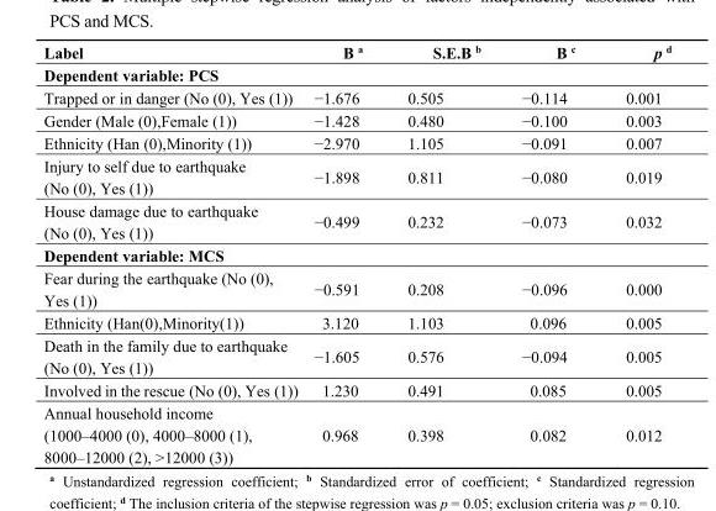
<table><thead><tr><td>Label</td><td>B <sup>a</sup></td><td>S.E.B <sup>b</sup></td><td>B <sup>c</sup></td><td>p <sup>d</sup></td></tr></thead><tbody><tr><td colspan="5">Dependent variable: PCS</td></tr><tr><td>Trapped or in danger (No (0), Yes (1))</td><td>−1.676</td><td>0.505</td><td>−0.114</td><td>0.001</td></tr><tr><td>Gender (Male (0),Female (1))</td><td>−1.428</td><td>0.480</td><td>−0.100</td><td>0.003</td></tr><tr><td>Ethnicity (Han (0),Minority (1))</td><td>−2.970</td><td>1.105</td><td>−0.091</td><td>0.007</td></tr><tr><td>Injury to self due to earthquake (No (0), Yes (1))</td><td>−1.898</td><td>0.811</td><td>−0.080</td><td>0.019</td></tr><tr><td>House damage due to earthquake (No (0), Yes (1))</td><td>−0.499</td><td>0.232</td><td>−0.073</td><td>0.032</td></tr><tr><td colspan="5">Dependent variable: MCS</td></tr><tr><td>Fear during the earthquake (No (0), Yes (1))</td><td>−0.591</td><td>0.208</td><td>−0.096</td><td>0.000</td></tr><tr><td>Ethnicity (Han(0),Minority(1))</td><td>3.120</td><td>1.103</td><td>0.096</td><td>0.005</td></tr><tr><td>Death in the family due to earthquake (No (0), Yes (1))</td><td>−1.605</td><td>0.576</td><td>−0.094</td><td>0.005</td></tr><tr><td>Involved in the rescue (No (0), Yes (1))</td><td>1.230</td><td>0.491</td><td>0.085</td><td>0.005</td></tr><tr><td>Annual household income (1000–4000 (0), 4000–8000 (1), 8000–12000 (2), &gt;12000 (3))</td><td>0.968</td><td>0.398</td><td>0.082</td><td>0.012</td></tr></tbody></table>